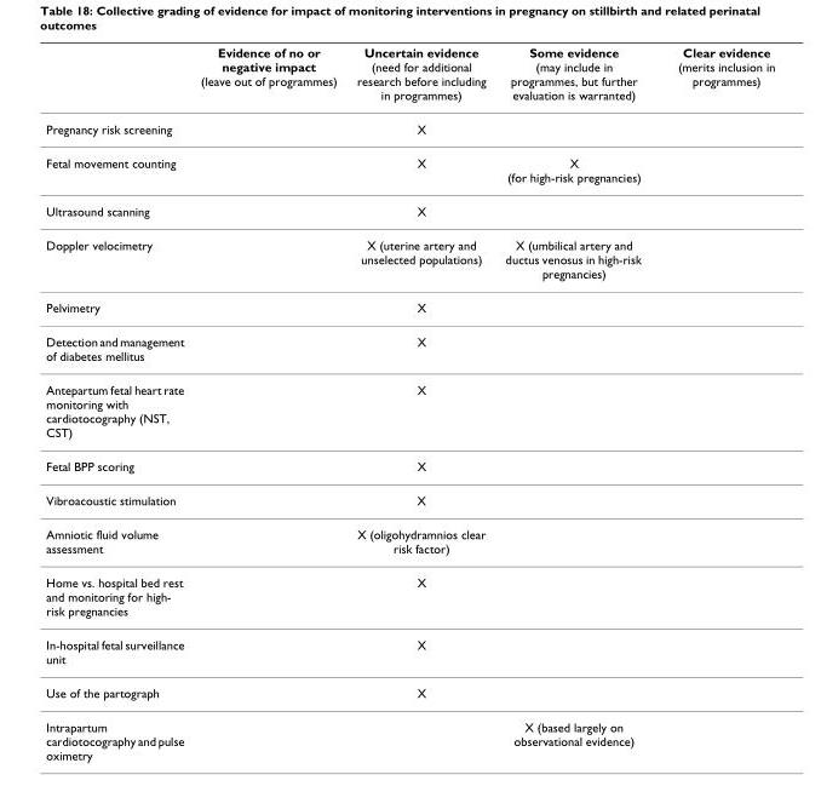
<table><thead><tr><td></td><td>Evidence of no or negative impact (leave out of programmes)</td><td>Uncertain evidence (need for additional research before including in programmes)</td><td>Some evidence (may include in programmes, but further evaluation is warranted)</td><td>Clear evidence (merits inclusion in programmes)</td></tr></thead><tbody><tr><td>Pregnancy risk screening</td><td></td><td>X</td><td></td><td></td></tr><tr><td>Fetal movement counting</td><td></td><td>X</td><td>X (for high-risk pregnancies)</td><td></td></tr><tr><td>Ultrasound scanning</td><td></td><td>X</td><td></td><td></td></tr><tr><td>Doppler velocimetry</td><td></td><td>X (uterine artery and unselected populations)</td><td>X (umbilical artery and ductus venosus in high-risk pregnancies)</td><td></td></tr><tr><td>Pelvimetry</td><td></td><td>X</td><td></td><td></td></tr><tr><td>Detection and management of diabetes mellitus</td><td></td><td>X</td><td></td><td></td></tr><tr><td>Antepartum fetal heart rate monitoring with cardiotocography (NST, CST)</td><td></td><td>X</td><td></td><td></td></tr><tr><td>Fetal BPP scoring</td><td></td><td>X</td><td></td><td></td></tr><tr><td>Vibroacoustic stimulation</td><td></td><td>X</td><td></td><td></td></tr><tr><td>Amniotic fluid volume assessment</td><td></td><td>X (oligohydramnios clear risk factor)</td><td></td><td></td></tr><tr><td>Home vs. hospital bed rest and monitoring for high- risk pregnancies</td><td></td><td>X</td><td></td><td></td></tr><tr><td>In-hospital fetal surveillance unit</td><td></td><td>X</td><td></td><td></td></tr><tr><td>Use of the partograph</td><td></td><td>X</td><td></td><td></td></tr><tr><td>Intrapartum cardiotocography and pulse oximetry</td><td></td><td></td><td>X (based largely on observational evidence)</td><td></td></tr></tbody></table>